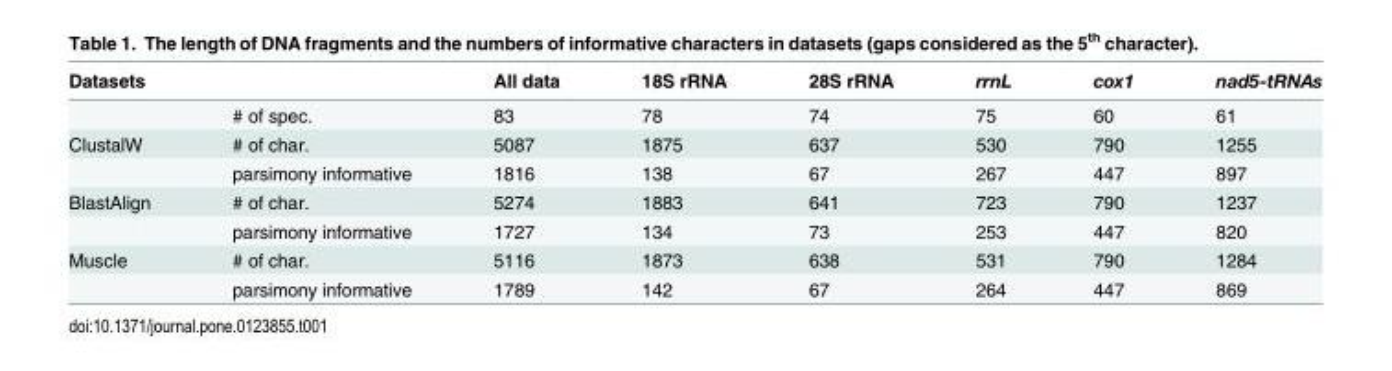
<table><thead><tr><td>Datasets</td><td></td><td>All data</td><td>18S rRNA</td><td>28S rRNA</td><td>rrnL</td><td>cox1</td><td>nad5-tRNAs</td></tr></thead><tbody><tr><td></td><td># of spec.</td><td>83</td><td>78</td><td>74</td><td>75</td><td>60</td><td>61</td></tr><tr><td rowspan="2">ClustalW</td><td># of char.</td><td>5087</td><td>1875</td><td>637</td><td>530</td><td>790</td><td>1255</td></tr><tr><td>parsimony informative</td><td>1816</td><td>138</td><td>67</td><td>267</td><td>447</td><td>897</td></tr><tr><td rowspan="2">BlastAlign</td><td># of char.</td><td>5274</td><td>1883</td><td>641</td><td>723</td><td>790</td><td>1237</td></tr><tr><td>parsimony informative</td><td>1727</td><td>134</td><td>73</td><td>253</td><td>447</td><td>820</td></tr><tr><td rowspan="2">Muscle</td><td># of char.</td><td>5116</td><td>1873</td><td>638</td><td>531</td><td>790</td><td>1284</td></tr><tr><td>parsimony informative</td><td>1789</td><td>142</td><td>67</td><td>264</td><td>447</td><td>869</td></tr></tbody></table>